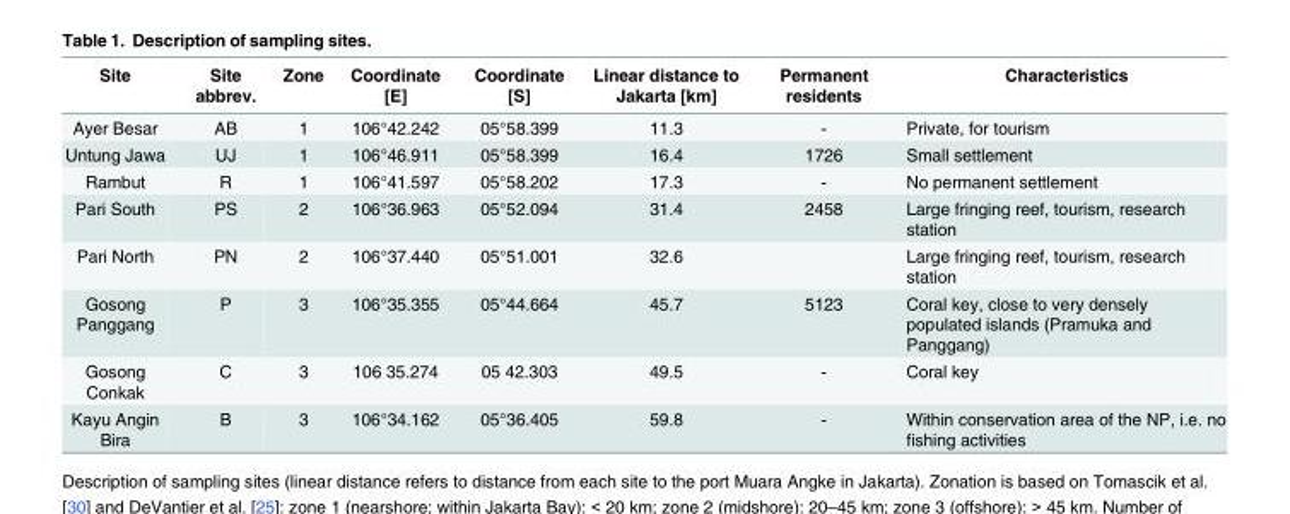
<table><thead><tr><td>Site</td><td>Site abbrev.</td><td>Zone</td><td>Coordinate [E]</td><td>Coordinate [S]</td><td>Linear distance to Jakarta [km]</td><td>Permanent residents</td><td>Characteristics</td></tr></thead><tbody><tr><td>Ayer Besar</td><td>AB</td><td>1</td><td>106°42.242</td><td>05°58.399</td><td>11.3</td><td>-</td><td>Private, for tourism</td></tr><tr><td>Untung Jawa</td><td>UJ</td><td>1</td><td>106°46.911</td><td>05°58.399</td><td>16.4</td><td>1726</td><td>Small settlement</td></tr><tr><td>Rambut</td><td>R</td><td>1</td><td>106°41.597</td><td>05°58.202</td><td>17.3</td><td>-</td><td>No permanent settlement</td></tr><tr><td>Pari South</td><td>PS</td><td>2</td><td>106°36.963</td><td>05°52.094</td><td>31.4</td><td>2458</td><td>Large fringing reef, tourism, research station</td></tr><tr><td>Pari North</td><td>PN</td><td>2</td><td>106°37.440</td><td>05°51.001</td><td>32.6</td><td></td><td>Large fringing reef, tourism, research station</td></tr><tr><td>Gosong Panggang</td><td>P</td><td>3</td><td>106°35.355</td><td>05°44.664</td><td>45.7</td><td>5123</td><td>Coral key, close to very densely populated islands (Pramuka and Panggang)</td></tr><tr><td>Gosong Conkak</td><td>C</td><td>3</td><td>106 35.274</td><td>05 42.303</td><td>49.5</td><td>-</td><td>Coral key</td></tr><tr><td>Kayu Angin Bira</td><td>B</td><td>3</td><td>106°34.162</td><td>05°36.405</td><td>59.8</td><td>-</td><td>Within conservation area of the NP, i.e. no fishing activities</td></tr></tbody></table>